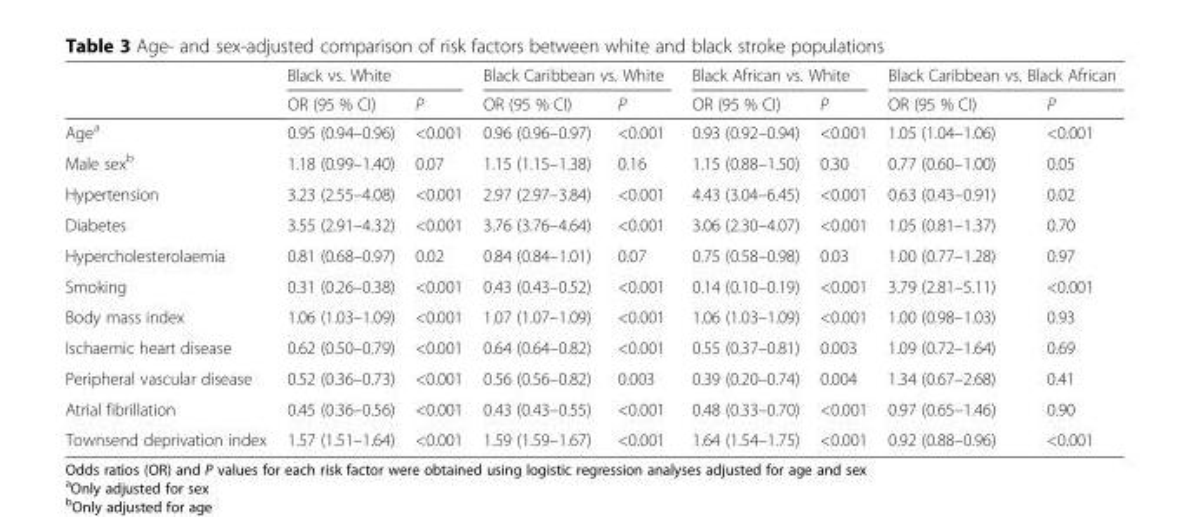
<table><thead><tr><td rowspan="2"></td><td colspan="2">Black vs. White</td><td colspan="2">Black Caribbean vs. White</td><td colspan="2">Black African vs. White</td><td colspan="2">Black Caribbean vs. Black African</td></tr><tr><td>OR (95 % CI)</td><td>P</td><td>OR (95 % CI)</td><td>P</td><td>OR (95 % CI)</td><td>P</td><td>OR (95 % CI)</td><td>P</td></tr></thead><tbody><tr><td>Age<sup>a</sup></td><td>0.95 (0.94–0.96)</td><td>&lt;0.001</td><td>0.96 (0.96–0.97)</td><td>&lt;0.001</td><td>0.93 (0.92–0.94)</td><td>&lt;0.001</td><td>1.05 (1.04–1.06)</td><td>&lt;0.001</td></tr><tr><td>Male sex<sup>b</sup></td><td>1.18 (0.99–1.40)</td><td>0.07</td><td>1.15 (1.15–1.38)</td><td>0.16</td><td>1.15 (0.88–1.50)</td><td>0.30</td><td>0.77 (0.60–1.00)</td><td>0.05</td></tr><tr><td>Hypertension</td><td>3.23 (2.55–4.08)</td><td>&lt;0.001</td><td>2.97 (2.97–3.84)</td><td>&lt;0.001</td><td>4.43 (3.04–6.45)</td><td>&lt;0.001</td><td>0.63 (0.43–0.91)</td><td>0.02</td></tr><tr><td>Diabetes</td><td>3.55 (2.91–4.32)</td><td>&lt;0.001</td><td>3.76 (3.76–4.64)</td><td>&lt;0.001</td><td>3.06 (2.30–4.07)</td><td>&lt;0.001</td><td>1.05 (0.81–1.37)</td><td>0.70</td></tr><tr><td>Hypercholesterolaemia</td><td>0.81 (0.68–0.97)</td><td>0.02</td><td>0.84 (0.84–1.01)</td><td>0.07</td><td>0.75 (0.58–0.98)</td><td>0.03</td><td>1.00 (0.77–1.28)</td><td>0.97</td></tr><tr><td>Smoking</td><td>0.31 (0.26–0.38)</td><td>&lt;0.001</td><td>0.43 (0.43–0.52)</td><td>&lt;0.001</td><td>0.14 (0.10–0.19)</td><td>&lt;0.001</td><td>3.79 (2.81–5.11)</td><td>&lt;0.001</td></tr><tr><td>Body mass index</td><td>1.06 (1.03–1.09)</td><td>&lt;0.001</td><td>1.07 (1.07–1.09)</td><td>&lt;0.001</td><td>1.06 (1.03–1.09)</td><td>&lt;0.001</td><td>1.00 (0.98–1.03)</td><td>0.93</td></tr><tr><td>Ischaemic heart disease</td><td>0.62 (0.50–0.79)</td><td>&lt;0.001</td><td>0.64 (0.64–0.82)</td><td>&lt;0.001</td><td>0.55 (0.37–0.81)</td><td>0.003</td><td>1.09 (0.72–1.64)</td><td>0.69</td></tr><tr><td>Peripheral vascular disease</td><td>0.52 (0.36–0.73)</td><td>&lt;0.001</td><td>0.56 (0.56–0.82)</td><td>0.003</td><td>0.39 (0.20–0.74)</td><td>0.004</td><td>1.34 (0.67–2.68)</td><td>0.41</td></tr><tr><td>Atrial fibrillation</td><td>0.45 (0.36–0.56)</td><td>&lt;0.001</td><td>0.43 (0.43–0.55)</td><td>&lt;0.001</td><td>0.48 (0.33–0.70)</td><td>&lt;0.001</td><td>0.97 (0.65–1.46)</td><td>0.90</td></tr><tr><td>Townsend deprivation index</td><td>1.57 (1.51–1.64)</td><td>&lt;0.001</td><td>1.59 (1.59–1.67)</td><td>&lt;0.001</td><td>1.64 (1.54–1.75)</td><td>&lt;0.001</td><td>0.92 (0.88–0.96)</td><td>&lt;0.001</td></tr></tbody></table>